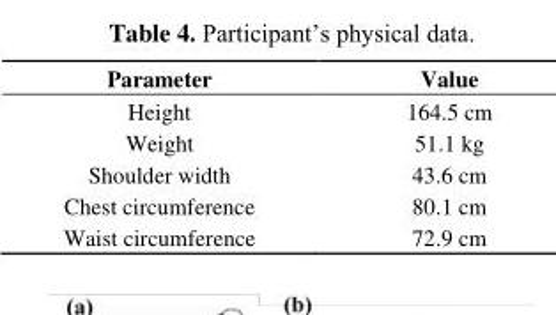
<table><thead><tr><td>Parameter</td><td>Value</td></tr></thead><tbody><tr><td>Height</td><td>164.5 cm</td></tr><tr><td>Weight</td><td>51.1 kg</td></tr><tr><td>Shoulder width</td><td>43.6 cm</td></tr><tr><td>Chest circumference</td><td>80.1 cm</td></tr><tr><td>Waist circumference</td><td>72.9 cm</td></tr></tbody></table>